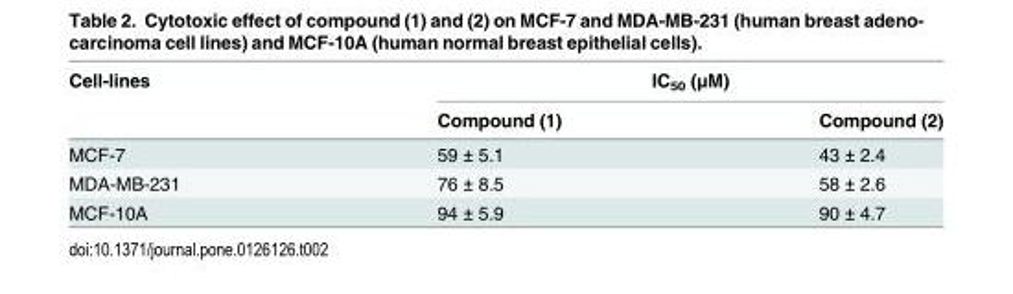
<table><thead><tr><td rowspan="2">Cell-lines</td><td colspan="2">IC<sub>50</sub> (μM)</td></tr><tr><td>Compound (1)</td><td>Compound (2)</td></tr></thead><tbody><tr><td>MCF-7</td><td>59 ± 5.1</td><td>43 ± 2.4</td></tr><tr><td>MDA-MB-231</td><td>76 ± 8.5</td><td>58 ± 2.6</td></tr><tr><td>MCF-10A</td><td>94 ± 5.9</td><td>90 ± 4.7</td></tr></tbody></table>